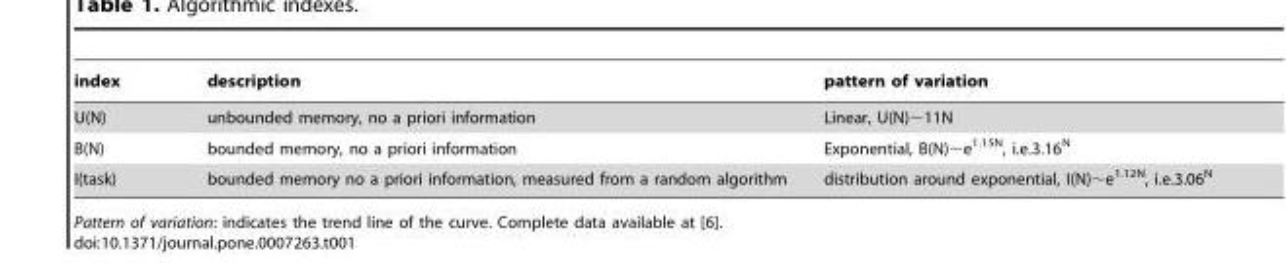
<table><thead><tr><td>index</td><td>description</td><td>pattern of variation</td></tr></thead><tbody><tr><td>U(N)</td><td>unbounded memory, no a priori information</td><td>Linear, U(N)∼11N</td></tr><tr><td>B(N)</td><td>bounded memory, no a priori information</td><td>Exponential, B(N)∼e<sup>1.15N</sup>, i.e.3.16<sup>N</sup></td></tr><tr><td>I(task)</td><td>bounded memory no a priori information, measured from a random algorithm</td><td>distribution around exponential, I(N)∼e<sup>1.12N</sup>, i.e.3.06<sup>N</sup></td></tr></tbody></table>